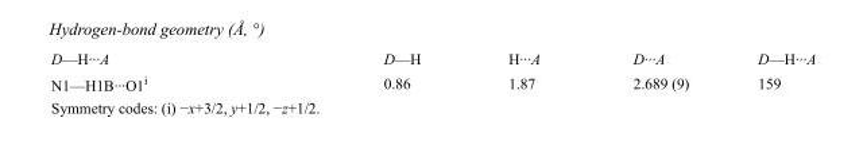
<table><tbody><tr><td>D—H···A</td><td>D—H</td><td>H···A</td><td>D···A</td><td>D—H···A</td></tr><tr><td>N1—H1B···O1<sup>i</sup></td><td>0.86</td><td>1.87</td><td>2.689 (9)</td><td>159</td></tr></tbody></table>